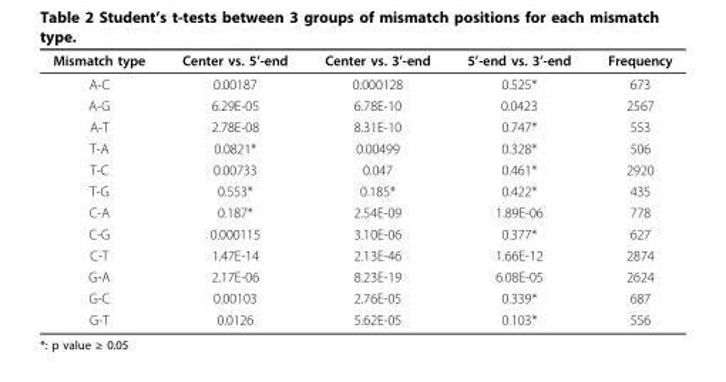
<table><thead><tr><td>Mismatch type</td><td>Center vs. 5’-end</td><td>Center vs. 3’-end</td><td>5’-end vs. 3’-end</td><td>Frequency</td></tr></thead><tbody><tr><td>A-C</td><td>0.00187</td><td>0.000128</td><td>0.525*</td><td>673</td></tr><tr><td>A-G</td><td>6.29E-05</td><td>6.78E-10</td><td>0.0423</td><td>2567</td></tr><tr><td>A-T</td><td>2.78E-08</td><td>8.31E-10</td><td>0.747*</td><td>553</td></tr><tr><td>T-A</td><td>0.0821*</td><td>0.00499</td><td>0.328*</td><td>506</td></tr><tr><td>T-C</td><td>0.00733</td><td>0.047</td><td>0.461*</td><td>2920</td></tr><tr><td>T-G</td><td>0.553*</td><td>0.185*</td><td>0.422*</td><td>435</td></tr><tr><td>C-A</td><td>0.187*</td><td>2.54E-09</td><td>1.89E-06</td><td>778</td></tr><tr><td>C-G</td><td>0.000115</td><td>3.10E-06</td><td>0.377*</td><td>627</td></tr><tr><td>C-T</td><td>1.47E-14</td><td>2.13E-46</td><td>1.66E-12</td><td>2874</td></tr><tr><td>G-A</td><td>2.17E-06</td><td>8.23E-19</td><td>6.08E-05</td><td>2624</td></tr><tr><td>G-C</td><td>0.00103</td><td>2.76E-05</td><td>0.339*</td><td>687</td></tr><tr><td>G-T</td><td>0.0126</td><td>5.62E-05</td><td>0.103*</td><td>556</td></tr></tbody></table>